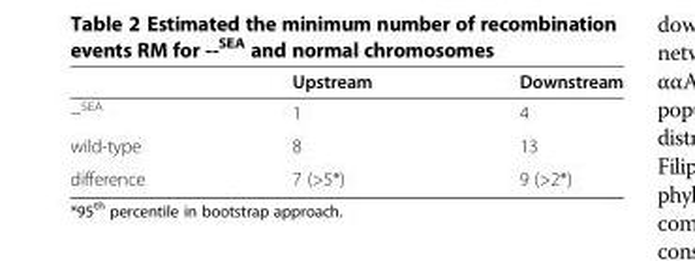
<table><thead><tr><td></td><td>Upstream</td><td>Downstream</td></tr></thead><tbody><tr><td>--<sup>SEA</sup></td><td>1</td><td>4</td></tr><tr><td>wild-type</td><td>8</td><td>13</td></tr><tr><td>difference</td><td>7 (&gt;5*)</td><td>9 (&gt;2*)</td></tr></tbody></table>